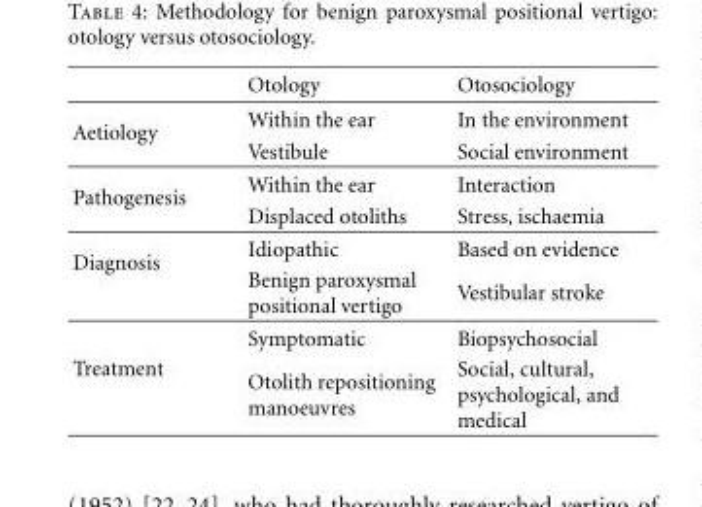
<table><thead><tr><td></td><td>Otology</td><td>Otosociology</td></tr></thead><tbody><tr><td rowspan="2">Aetiology</td><td>Within the ear</td><td>In the environment</td></tr><tr><td>Vestibule</td><td>Social environment</td></tr><tr><td rowspan="2">Pathogenesis</td><td>Within the ear</td><td>Interaction</td></tr><tr><td>Displaced otoliths</td><td>Stress, ischaemia</td></tr><tr><td rowspan="2">Diagnosis</td><td>Idiopathic</td><td>Based on evidence</td></tr><tr><td>Benign paroxysmal positional vertigo</td><td>Vestibular stroke</td></tr><tr><td rowspan="2">Treatment</td><td>Symptomatic</td><td>Biopsychosocial</td></tr><tr><td>Otolith repositioning manoeuvres</td><td>Social, cultural, psychological, and medical</td></tr></tbody></table>